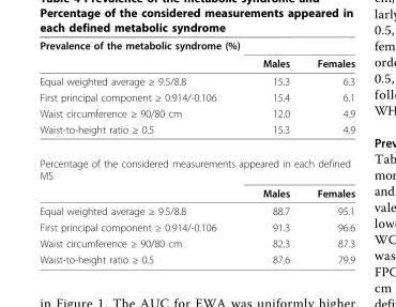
<table><thead><tr><td colspan="3">Prevalence of the metabolic syndrome (%)</td></tr><tr><td></td><td>Males</td><td>Females</td></tr></thead><tbody><tr><td>Equal weighted average ≥ 9.5/8.8</td><td>15.3</td><td>6.3</td></tr><tr><td>First principal component ≥ 0.914/-0.106</td><td>15.4</td><td>6.1</td></tr><tr><td>Waist circumference ≥ 90/80 cm</td><td>12.0</td><td>4.9</td></tr><tr><td>Waist-to-height ratio ≥ 0.5</td><td>15.3</td><td>4.9</td></tr><tr><td colspan="3">Percentage of the considered measurements appeared in each defined MS</td></tr><tr><td></td><td>Males</td><td>Females</td></tr><tr><td>Equal weighted average ≥ 9.5/8.8</td><td>88.7</td><td>95.1</td></tr><tr><td>First principal component ≥ 0.914/-0.106</td><td>91.3</td><td>96.6</td></tr><tr><td>Waist circumference ≥ 90/80 cm</td><td>82.3</td><td>87.3</td></tr><tr><td>Waist-to-height ratio ≥ 0.5</td><td>87.6</td><td>79.9</td></tr></tbody></table>